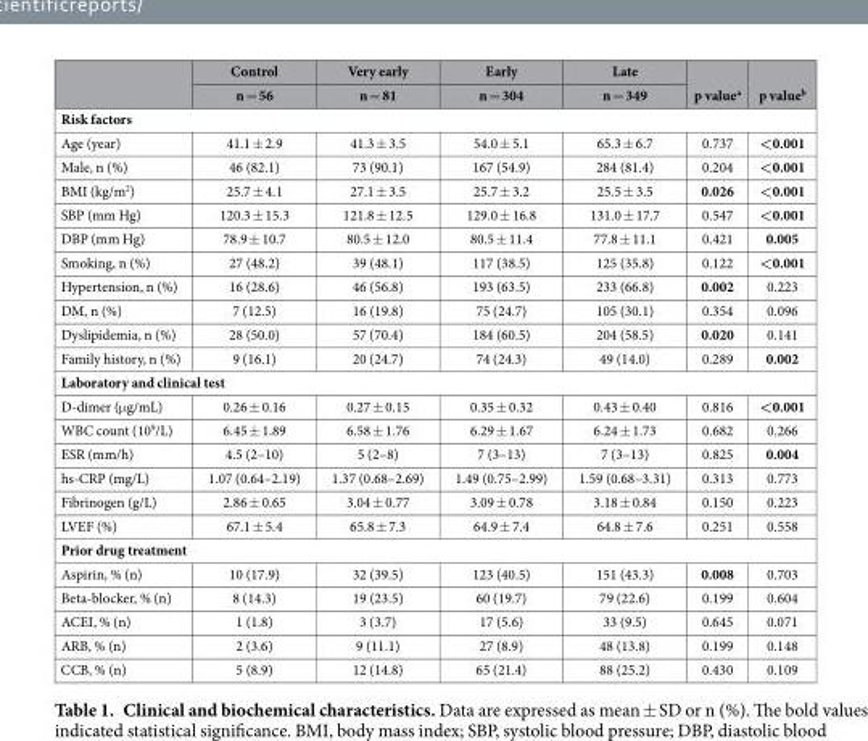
<table><thead><tr><td rowspan="2"></td><td rowspan="2">Control n = 56</td><td rowspan="2">Very early n = 81</td><td rowspan="2">Early n = 304</td><td rowspan="2">Late n = 349</td><td rowspan="2">p value<sup>a</sup></td><td rowspan="2">p value<sup>b</sup></td></tr><tr></tr></thead><tbody><tr><td colspan="7">Risk factors</td></tr><tr><td>Age (year)</td><td>41.1 ± 2.9</td><td>41.3 ± 3.5</td><td>54.0 ± 5.1</td><td>65.3 ± 6.7</td><td>0.737</td><td>&lt;0.001</td></tr><tr><td>Male, n (%)</td><td>46 (82.1)</td><td>73 (90.1)</td><td>167 (54.9)</td><td>284 (81.4)</td><td>0.204</td><td>&lt;0.001</td></tr><tr><td>BMI (kg/m<sup>2</sup>)</td><td>25.7 ± 4.1</td><td>27.1 ± 3.5</td><td>25.7 ± 3.2</td><td>25.5 ± 3.5</td><td>0.026</td><td>&lt;0.001</td></tr><tr><td>SBP (mm Hg)</td><td>120.3 ± 15.3</td><td>121.8 ± 12.5</td><td>129.0 ± 16.8</td><td>131.0 ± 17.7</td><td>0.547</td><td>&lt;0.001</td></tr><tr><td>DBP (mm Hg)</td><td>78.9 ± 10.7</td><td>80.5 ± 12.0</td><td>80.5 ± 11.4</td><td>77.8 ± 11.1</td><td>0.421</td><td>0.005</td></tr><tr><td>Smoking, n (%)</td><td>27 (48.2)</td><td>39 (48.1)</td><td>117 (38.5)</td><td>125 (35.8)</td><td>0.122</td><td>&lt;0.001</td></tr><tr><td>Hypertension, n (%)</td><td>16 (28.6)</td><td>46 (56.8)</td><td>193 (63.5)</td><td>233 (66.8)</td><td>0.002</td><td>0.223</td></tr><tr><td>DM, n (%)</td><td>7 (12.5)</td><td>16 (19.8)</td><td>75 (24.7)</td><td>105 (30.1)</td><td>0.354</td><td>0.096</td></tr><tr><td>Dyslipidemia, n (%)</td><td>28 (50.0)</td><td>57 (70.4)</td><td>184 (60.5)</td><td>204 (58.5)</td><td>0.020</td><td>0.141</td></tr><tr><td>Family history, n (%)</td><td>9 (16.1)</td><td>20 (24.7)</td><td>74 (24.3)</td><td>49 (14.0)</td><td>0.289</td><td>0.002</td></tr><tr><td colspan="7">Laboratory and clinical test</td></tr><tr><td>D-dimer (μ g/mL)</td><td>0.26 ± 0.16</td><td>0.27 ± 0.15</td><td>0.35 ± 0.32</td><td>0.43 ± 0.40</td><td>0.816</td><td>&lt;0.001</td></tr><tr><td>WBC count (10<sup>9</sup>/L)</td><td>6.45 ± 1.89</td><td>6.58 ± 1.76</td><td>6.29 ± 1.67</td><td>6.24 ± 1.73</td><td>0.682</td><td>0.266</td></tr><tr><td>ESR (mm/h)</td><td>4.5 (2–10)</td><td>5 (2–8)</td><td>7 (3–13)</td><td>7 (3–13)</td><td>0.825</td><td>0.004</td></tr><tr><td>hs-CRP (mg/L)</td><td>1.07 (0.64–2.19)</td><td>1.37 (0.68–2.69)</td><td>1.49 (0.75–2.99)</td><td>1.59 (0.68–3.31)</td><td>0.313</td><td>0.773</td></tr><tr><td>Fibrinogen (g/L)</td><td>2.86 ± 0.65</td><td>3.04 ± 0.77</td><td>3.09 ± 0.78</td><td>3.18 ± 0.84</td><td>0.150</td><td>0.223</td></tr><tr><td>LVEF (%)</td><td>67.1 ± 5.4</td><td>65.8 ± 7.3</td><td>64.9 ± 7.4</td><td>64.8 ± 7.6</td><td>0.251</td><td>0.558</td></tr><tr><td colspan="7">Prior drug treatment</td></tr><tr><td>Aspirin, % (n)</td><td>10 (17.9)</td><td>32 (39.5)</td><td>123 (40.5)</td><td>151 (43.3)</td><td>0.008</td><td>0.703</td></tr><tr><td>Beta-blocker, % (n)</td><td>8 (14.3)</td><td>19 (23.5)</td><td>60 (19.7)</td><td>79 (22.6)</td><td>0.199</td><td>0.604</td></tr><tr><td>ACEI, % (n)</td><td>1 (1.8)</td><td>3 (3.7)</td><td>17 (5.6)</td><td>33 (9.5)</td><td>0.645</td><td>0.071</td></tr><tr><td>ARB, % (n)</td><td>2 (3.6)</td><td>9 (11.1)</td><td>27 (8.9)</td><td>48 (13.8)</td><td>0.199</td><td>0.148</td></tr><tr><td>CCB, % (n)</td><td>5 (8.9)</td><td>12 (14.8)</td><td>65 (21.4)</td><td>88 (25.2)</td><td>0.430</td><td>0.109</td></tr></tbody></table>